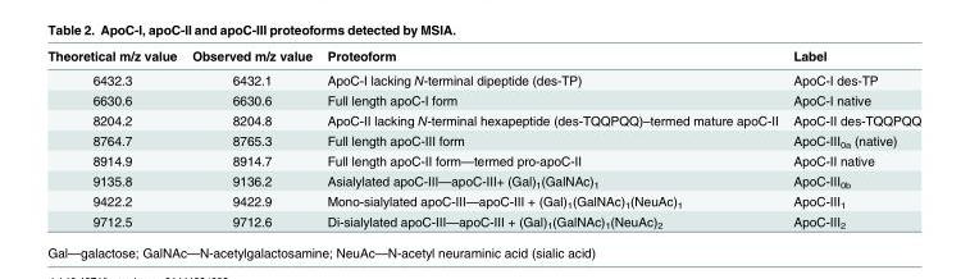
<table><thead><tr><td>Theoretical m/z value</td><td>Observed m/z value</td><td>Proteoform</td><td>Label</td></tr></thead><tbody><tr><td>6432.3</td><td>6432.1</td><td>ApoC-I lacking N-terminal dipeptide (des-TP)</td><td>ApoC-I des-TP</td></tr><tr><td>6630.6</td><td>6630.6</td><td>Full length apoC-I form</td><td>ApoC-I native</td></tr><tr><td>8204.2</td><td>8204.8</td><td>ApoC-II lacking N-terminal hexapeptide (des-TQQPQQ)–termed mature apoC-II</td><td>ApoC-II des-TQQPQQ</td></tr><tr><td>8764.7</td><td>8765.3</td><td>Full length apoC-III form</td><td>ApoC-III<sub>0a</sub> (native)</td></tr><tr><td>8914.9</td><td>8914.7</td><td>Full length apoC-II form—termed pro-apoC-II</td><td>ApoC-II native</td></tr><tr><td>9135.8</td><td>9136.2</td><td>Asialylated apoC-III—apoC-III+ (Gal)<sub>1</sub>(GalNAc)<sub>1</sub></td><td>ApoC-III<sub>0b</sub></td></tr><tr><td>9422.2</td><td>9422.9</td><td>Mono-sialylated apoC-III—apoC-III + (Gal)<sub>1</sub>(GalNAc)<sub>1</sub>(NeuAc)<sub>1</sub></td><td>ApoC-III<sub>1</sub></td></tr><tr><td>9712.5</td><td>9712.6</td><td>Di-sialylated apoC-III—apoC-III + (Gal)<sub>1</sub>(GalNAc)<sub>1</sub>(NeuAc)<sub>2</sub></td><td>ApoC-III<sub>2</sub></td></tr></tbody></table>